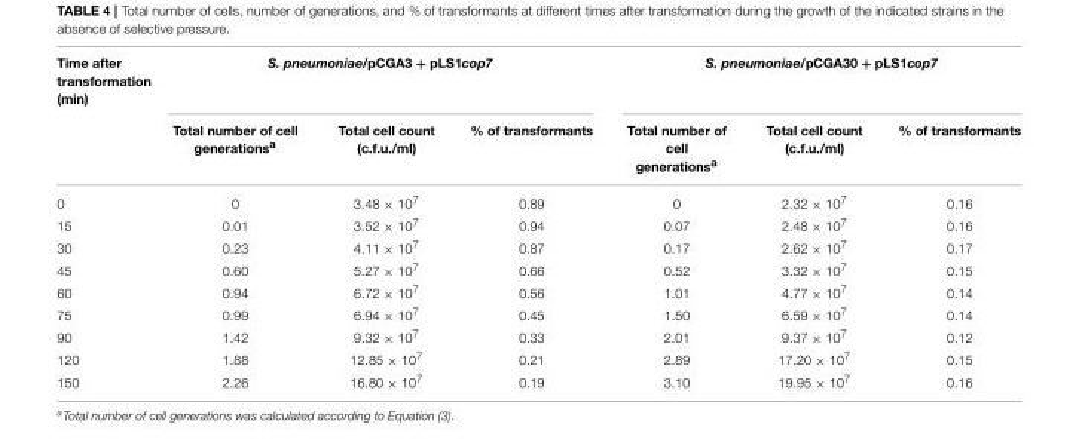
<table><thead><tr><td rowspan="2">Time after transformation (min)</td><td colspan="3">S. pneumoniae/pCGA3 + pLS1cop7</td><td colspan="3">S. pneumoniae/pCGA30 + pLS1cop7</td></tr><tr><td>Total number of cell generations<sup>a</sup></td><td>Total cell count (c.f.u./ml)</td><td>% of transformants</td><td>Total number of cell generations<sup>a</sup></td><td>Total cell count (c.f.u./ml)</td><td>% of transformants</td></tr></thead><tbody><tr><td>0</td><td>0</td><td>3.48 × 10<sup>7</sup></td><td>0.89</td><td>0</td><td>2.32 × 10<sup>7</sup></td><td>0.16</td></tr><tr><td>15</td><td>0.01</td><td>3.52 × 10<sup>7</sup></td><td>0.94</td><td>0.07</td><td>2.48 × 10<sup>7</sup></td><td>0.16</td></tr><tr><td>30</td><td>0.23</td><td>4.11 × 10<sup>7</sup></td><td>0.87</td><td>0.17</td><td>2.62 × 10<sup>7</sup></td><td>0.17</td></tr><tr><td>45</td><td>0.60</td><td>5.27 × 10<sup>7</sup></td><td>0.66</td><td>0.52</td><td>3.32 × 10<sup>7</sup></td><td>0.15</td></tr><tr><td>60</td><td>0.94</td><td>6.72 × 10<sup>7</sup></td><td>0.56</td><td>1.01</td><td>4.77 × 10<sup>7</sup></td><td>0.14</td></tr><tr><td>75</td><td>0.99</td><td>6.94 × 10<sup>7</sup></td><td>0.45</td><td>1.50</td><td>6.59 × 10<sup>7</sup></td><td>0.14</td></tr><tr><td>90</td><td>1.42</td><td>9.32 × 10<sup>7</sup></td><td>0.33</td><td>2.01</td><td>9.37 × 10<sup>7</sup></td><td>0.12</td></tr><tr><td>120</td><td>1.88</td><td>12.85 × 10<sup>7</sup></td><td>0.21</td><td>2.89</td><td>17.20 × 10<sup>7</sup></td><td>0.15</td></tr><tr><td>150</td><td>2.26</td><td>16.80 × 10<sup>7</sup></td><td>0.19</td><td>3.10</td><td>19.95 × 10<sup>7</sup></td><td>0.16</td></tr></tbody></table>